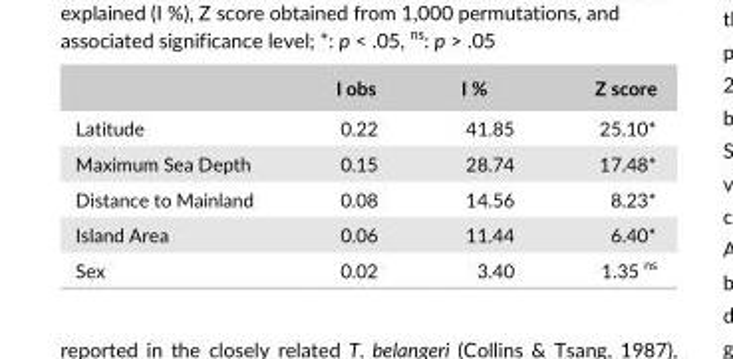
<table><thead><tr><td></td><td>I obs</td><td>I %</td><td>Z score</td></tr></thead><tbody><tr><td>Latitude</td><td>0.22</td><td>41.85</td><td>25.10*</td></tr><tr><td>Maximum Sea Depth</td><td>0.15</td><td>28.74</td><td>17.48*</td></tr><tr><td>Distance to Mainland</td><td>0.08</td><td>14.56</td><td>8.23*</td></tr><tr><td>Island Area</td><td>0.06</td><td>11.44</td><td>6.40*</td></tr><tr><td>Sex</td><td>0.02</td><td>3.40</td><td>1.35 <sup>ns</sup></td></tr></tbody></table>